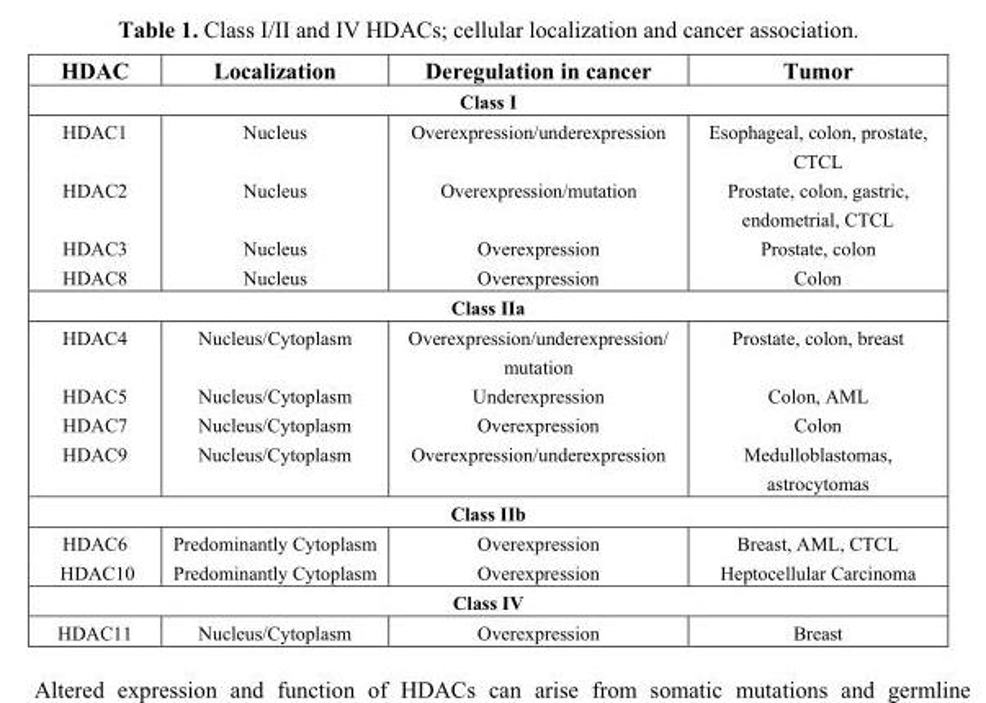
<table><thead><tr><td>HDAC</td><td>Localization</td><td>Deregulation in cancer</td><td>Tumor</td></tr></thead><tbody><tr><td colspan="4">Class I</td></tr><tr><td>HDAC1</td><td>Nucleus</td><td>Overexpression/underexpression</td><td>Esophageal, colon, prostate, CTCL</td></tr><tr><td>HDAC2</td><td>Nucleus</td><td>Overexpression/mutation</td><td>Prostate, colon, gastric, endometrial, CTCL</td></tr><tr><td>HDAC3</td><td>Nucleus</td><td>Overexpression</td><td>Prostate, colon</td></tr><tr><td>HDAC8</td><td>Nucleus</td><td>Overexpression</td><td>Colon</td></tr><tr><td colspan="4">Class IIa</td></tr><tr><td>HDAC4</td><td>Nucleus/Cytoplasm</td><td>Overexpression/underexpression/ mutation</td><td>Prostate, colon, breast</td></tr><tr><td>HDAC5</td><td>Nucleus/Cytoplasm</td><td>Underexpression</td><td>Colon, AML</td></tr><tr><td>HDAC7</td><td>Nucleus/Cytoplasm</td><td>Overexpression</td><td>Colon</td></tr><tr><td>HDAC9</td><td>Nucleus/Cytoplasm</td><td>Overexpression/underexpression</td><td>Medulloblastomas, astrocytomas</td></tr><tr><td colspan="4">Class IIb</td></tr><tr><td>HDAC6</td><td>Predominantly Cytoplasm</td><td>Overexpression</td><td>Breast, AML, CTCL</td></tr><tr><td>HDAC10</td><td>Predominantly Cytoplasm</td><td>Overexpression</td><td>Heptocellular Carcinoma</td></tr><tr><td colspan="4">Class IV</td></tr><tr><td>HDAC11</td><td>Nucleus/Cytoplasm</td><td>Overexpression</td><td>Breast</td></tr></tbody></table>